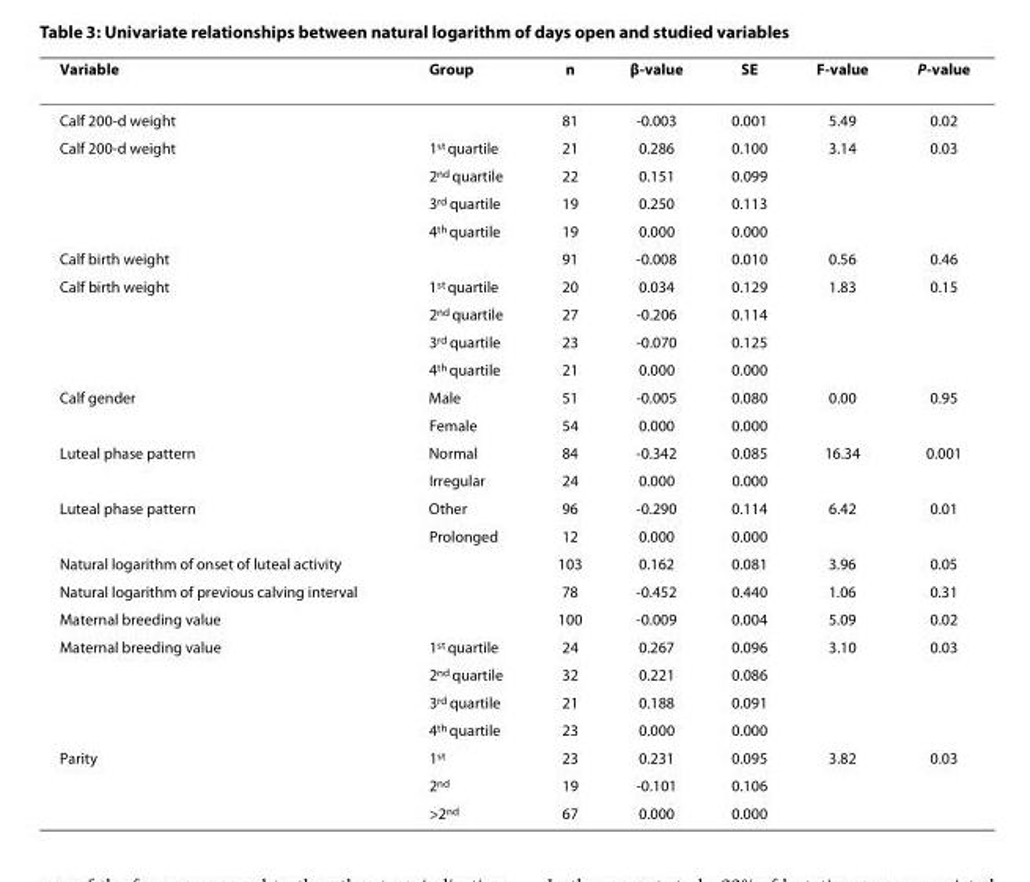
<table><thead><tr><td>Variable</td><td>Group</td><td>n</td><td>β-value</td><td>SE</td><td>F-value</td><td>P-value</td></tr></thead><tbody><tr><td>Calf 200-d weight</td><td></td><td>81</td><td>-0.003</td><td>0.001</td><td>5.49</td><td>0.02</td></tr><tr><td rowspan="4">Calf 200-d weight</td><td>1<sup>st</sup> quartile</td><td>21</td><td>0.286</td><td>0.100</td><td>3.14</td><td>0.03</td></tr><tr><td>2<sup>nd</sup> quartile</td><td>22</td><td>0.151</td><td>0.099</td><td></td><td></td></tr><tr><td>3<sup>rd</sup> quartile</td><td>19</td><td>0.250</td><td>0.113</td><td></td><td></td></tr><tr><td>4<sup>th</sup> quartile</td><td>19</td><td>0.000</td><td>0.000</td><td></td><td></td></tr><tr><td>Calf birth weight</td><td></td><td>91</td><td>-0.008</td><td>0.010</td><td>0.56</td><td>0.46</td></tr><tr><td rowspan="4">Calf birth weight</td><td>1<sup>st</sup> quartile</td><td>20</td><td>0.034</td><td>0.129</td><td>1.83</td><td>0.15</td></tr><tr><td>2<sup>nd</sup> quartile</td><td>27</td><td>-0.206</td><td>0.114</td><td></td><td></td></tr><tr><td>3<sup>rd</sup> quartile</td><td>23</td><td>-0.070</td><td>0.125</td><td></td><td></td></tr><tr><td>4<sup>th</sup> quartile</td><td>21</td><td>0.000</td><td>0.000</td><td></td><td></td></tr><tr><td rowspan="2">Calf gender</td><td>Male</td><td>51</td><td>-0.005</td><td>0.080</td><td>0.00</td><td>0.95</td></tr><tr><td>Female</td><td>54</td><td>0.000</td><td>0.000</td><td></td><td></td></tr><tr><td rowspan="2">Luteal phase pattern</td><td>Normal</td><td>84</td><td>-0.342</td><td>0.085</td><td>16.34</td><td>0.001</td></tr><tr><td>Irregular</td><td>24</td><td>0.000</td><td>0.000</td><td></td><td></td></tr><tr><td rowspan="2">Luteal phase pattern</td><td>Other</td><td>96</td><td>-0.290</td><td>0.114</td><td>6.42</td><td>0.01</td></tr><tr><td>Prolonged</td><td>12</td><td>0.000</td><td>0.000</td><td></td><td></td></tr><tr><td>Natural logarithm of onset of luteal activity</td><td></td><td>103</td><td>0.162</td><td>0.081</td><td>3.96</td><td>0.05</td></tr><tr><td>Natural logarithm of previous calving interval</td><td></td><td>78</td><td>-0.452</td><td>0.440</td><td>1.06</td><td>0.31</td></tr><tr><td>Maternal breeding value</td><td></td><td>100</td><td>-0.009</td><td>0.004</td><td>5.09</td><td>0.02</td></tr><tr><td rowspan="4">Maternal breeding value</td><td>1<sup>st</sup> quartile</td><td>24</td><td>0.267</td><td>0.096</td><td>3.10</td><td>0.03</td></tr><tr><td>2<sup>nd</sup> quartile</td><td>32</td><td>0.221</td><td>0.086</td><td></td><td></td></tr><tr><td>3<sup>rd</sup> quartile</td><td>21</td><td>0.188</td><td>0.091</td><td></td><td></td></tr><tr><td>4<sup>th</sup> quartile</td><td>23</td><td>0.000</td><td>0.000</td><td></td><td></td></tr><tr><td rowspan="3">Parity</td><td>1<sup>st</sup></td><td>23</td><td>0.231</td><td>0.095</td><td>3.82</td><td>0.03</td></tr><tr><td>2<sup>nd</sup></td><td>19</td><td>-0.101</td><td>0.106</td><td></td><td></td></tr><tr><td>&gt;2<sup>nd</sup></td><td>67</td><td>0.000</td><td>0.000</td><td></td><td></td></tr></tbody></table>